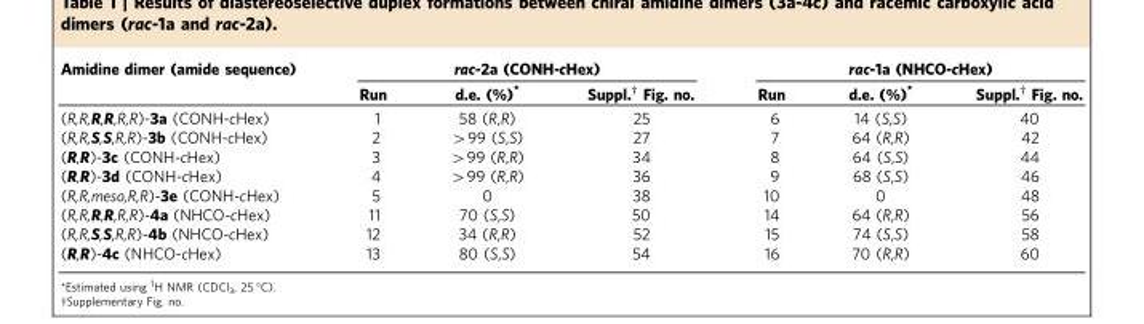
<table><thead><tr><td rowspan="2">Amidine dimer (amide sequence)</td><td colspan="3">rac-2a (CONH-cHex)</td><td colspan="3">rac-1a (NHCO-cHex)</td></tr><tr><td>Run</td><td>d.e. (%)*</td><td>Suppl.† Fig. no.</td><td>Run</td><td>d.e. (%)*</td><td>Suppl.† Fig. no.</td></tr></thead><tbody><tr><td>(R,R,R,R,R,R)-3a (CONH-cHex)</td><td>1</td><td>58 (R,R)</td><td>25</td><td>6</td><td>14 (S,S)</td><td>40</td></tr><tr><td>(R,R,S,S,R,R)-3b (CONH-cHex)</td><td>2</td><td>&gt;99 (S,S)</td><td>27</td><td>7</td><td>64 (R,R)</td><td>42</td></tr><tr><td>(R,R)-3c (CONH-cHex)</td><td>3</td><td>&gt;99 (R,R)</td><td>34</td><td>8</td><td>64 (S,S)</td><td>44</td></tr><tr><td>(R,R)-3d (CONH-cHex)</td><td>4</td><td>&gt;99 (R,R)</td><td>36</td><td>9</td><td>68 (S,S)</td><td>46</td></tr><tr><td>(R,R,meso,R,R)-3e (CONH-cHex)</td><td>5</td><td>0</td><td>38</td><td>10</td><td>0</td><td>48</td></tr><tr><td>(R,R,R,R,R,R)-4a (NHCO-cHex)</td><td>11</td><td>70 (S,S)</td><td>50</td><td>14</td><td>64 (R,R)</td><td>56</td></tr><tr><td>(R,R,S,S,R,R)-4b (NHCO-cHex)</td><td>12</td><td>34 (R,R)</td><td>52</td><td>15</td><td>74 (S,S)</td><td>58</td></tr><tr><td>(R,R)-4c (NHCO-cHex)</td><td>13</td><td>80 (S,S)</td><td>54</td><td>16</td><td>70 (R,R)</td><td>60</td></tr></tbody></table>